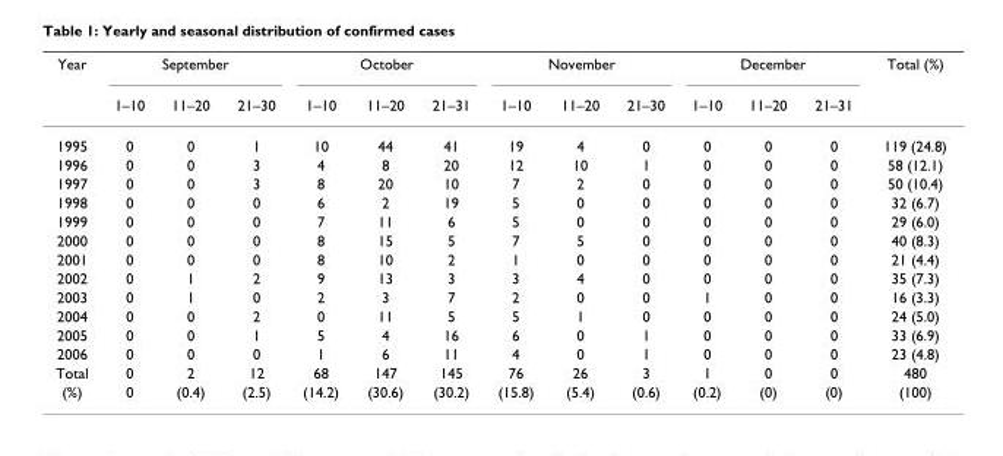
<table><thead><tr><td rowspan="2">Year</td><td colspan="3">September</td><td colspan="3">October</td><td colspan="3">November</td><td colspan="3">December</td><td rowspan="2">Total (%)</td></tr><tr><td>1–10</td><td>11–20</td><td>21–30</td><td>1–10</td><td>11–20</td><td>21–31</td><td>1–10</td><td>11–20</td><td>21–30</td><td>1–10</td><td>11–20</td><td>21–31</td></tr></thead><tbody><tr><td>1995</td><td>0</td><td>0</td><td>1</td><td>10</td><td>44</td><td>41</td><td>19</td><td>4</td><td>0</td><td>0</td><td>0</td><td>0</td><td>119 (24.8)</td></tr><tr><td>1996</td><td>0</td><td>0</td><td>3</td><td>4</td><td>8</td><td>20</td><td>12</td><td>10</td><td>1</td><td>0</td><td>0</td><td>0</td><td>58 (12.1)</td></tr><tr><td>1997</td><td>0</td><td>0</td><td>3</td><td>8</td><td>20</td><td>10</td><td>7</td><td>2</td><td>0</td><td>0</td><td>0</td><td>0</td><td>50 (10.4)</td></tr><tr><td>1998</td><td>0</td><td>0</td><td>0</td><td>6</td><td>2</td><td>19</td><td>5</td><td>0</td><td>0</td><td>0</td><td>0</td><td>0</td><td>32 (6.7)</td></tr><tr><td>1999</td><td>0</td><td>0</td><td>0</td><td>7</td><td>11</td><td>6</td><td>5</td><td>0</td><td>0</td><td>0</td><td>0</td><td>0</td><td>29 (6.0)</td></tr><tr><td>2000</td><td>0</td><td>0</td><td>0</td><td>8</td><td>15</td><td>5</td><td>7</td><td>5</td><td>0</td><td>0</td><td>0</td><td>0</td><td>40 (8.3)</td></tr><tr><td>2001</td><td>0</td><td>0</td><td>0</td><td>8</td><td>10</td><td>2</td><td>1</td><td>0</td><td>0</td><td>0</td><td>0</td><td>0</td><td>21 (4.4)</td></tr><tr><td>2002</td><td>0</td><td>1</td><td>2</td><td>9</td><td>13</td><td>3</td><td>3</td><td>4</td><td>0</td><td>0</td><td>0</td><td>0</td><td>35 (7.3)</td></tr><tr><td>2003</td><td>0</td><td>1</td><td>0</td><td>2</td><td>3</td><td>7</td><td>2</td><td>0</td><td>0</td><td>1</td><td>0</td><td>0</td><td>16 (3.3)</td></tr><tr><td>2004</td><td>0</td><td>0</td><td>2</td><td>0</td><td>11</td><td>5</td><td>5</td><td>1</td><td>0</td><td>0</td><td>0</td><td>0</td><td>24 (5.0)</td></tr><tr><td>2005</td><td>0</td><td>0</td><td>1</td><td>5</td><td>4</td><td>16</td><td>6</td><td>0</td><td>1</td><td>0</td><td>0</td><td>0</td><td>33 (6.9)</td></tr><tr><td>2006</td><td>0</td><td>0</td><td>0</td><td>1</td><td>6</td><td>11</td><td>4</td><td>0</td><td>1</td><td>0</td><td>0</td><td>0</td><td>23 (4.8)</td></tr><tr><td>Total</td><td>0</td><td>2</td><td>12</td><td>68</td><td>147</td><td>145</td><td>76</td><td>26</td><td>3</td><td>1</td><td>0</td><td>0</td><td>480</td></tr><tr><td>(%)</td><td>0</td><td>(0.4)</td><td>(2.5)</td><td>(14.2)</td><td>(30.6)</td><td>(30.2)</td><td>(15.8)</td><td>(5.4)</td><td>(0.6)</td><td>(0.2)</td><td>(0)</td><td>(0)</td><td>(100)</td></tr></tbody></table>